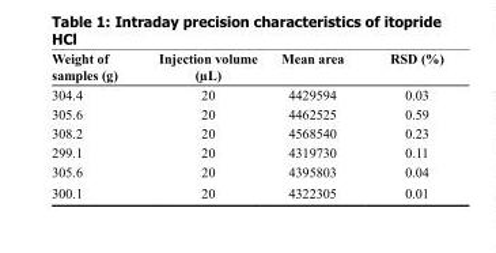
<table><thead><tr><td>Weight of samples (g)</td><td>Injection volume (µL)</td><td>Mean area</td><td>RSD (%)</td></tr></thead><tbody><tr><td>304.4</td><td>20</td><td>4429594</td><td>0.03</td></tr><tr><td>305.6</td><td>20</td><td>4462525</td><td>0.59</td></tr><tr><td>308.2</td><td>20</td><td>4568540</td><td>0.23</td></tr><tr><td>299.1</td><td>20</td><td>4319730</td><td>0.11</td></tr><tr><td>305.6</td><td>20</td><td>4395803</td><td>0.04</td></tr><tr><td>300.1</td><td>20</td><td>4322305</td><td>0.01</td></tr></tbody></table>